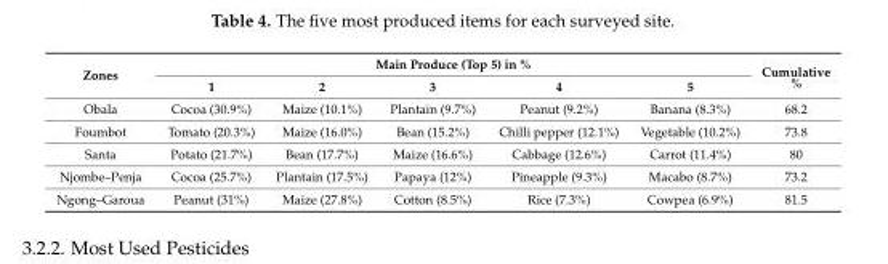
<table><thead><tr><td rowspan="2">Zones</td><td colspan="5">Main Produce (Top 5) in %</td><td rowspan="2">Cumulative %</td></tr><tr><td>1</td><td>2</td><td>3</td><td>4</td><td>5</td></tr></thead><tbody><tr><td>Obala</td><td>Cocoa (30.9%)</td><td>Maize (10.1%)</td><td>Plantain (9.7%)</td><td>Peanut (9.2%)</td><td>Banana (8.3%)</td><td>68.2</td></tr><tr><td>Foumbot</td><td>Tomato (20.3%)</td><td>Maize (16.0%)</td><td>Bean (15.2%)</td><td>Chilli pepper (12.1%)</td><td>Vegetable (10.2%)</td><td>73.8</td></tr><tr><td>Santa</td><td>Potato (21.7%)</td><td>Bean (17.7%)</td><td>Maize (16.6%)</td><td>Cabbage (12.6%)</td><td>Carrot (11.4%)</td><td>80</td></tr><tr><td>Njombe–Penja</td><td>Cocoa (25.7%)</td><td>Plantain (17.5%)</td><td>Papaya (12%)</td><td>Pineapple (9.3%)</td><td>Macabo (8.7%)</td><td>73.2</td></tr><tr><td>Ngong–Garoua</td><td>Peanut (31%)</td><td>Maize (27.8%)</td><td>Cotton (8.5%)</td><td>Rice (7.3%)</td><td>Cowpea (6.9%)</td><td>81.5</td></tr></tbody></table>